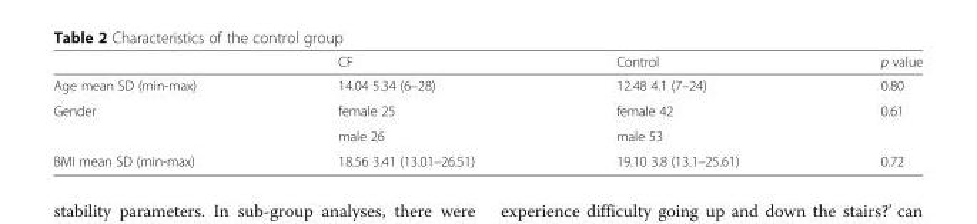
<table><thead><tr><td></td><td>CF</td><td>Control</td><td>p value</td></tr></thead><tbody><tr><td>Age mean SD (min-max)</td><td>14.04 5.34 (6–28)</td><td>12.48 4.1 (7–24)</td><td>0.80</td></tr><tr><td rowspan="2">Gender</td><td>female 25</td><td>female 42</td><td rowspan="2">0.61</td></tr><tr><td>male 26</td><td>male 53</td></tr><tr><td>BMI mean SD (min-max)</td><td>18.56 3.41 (13.01–26.51)</td><td>19.10 3.8 (13.1–25.61)</td><td>0.72</td></tr></tbody></table>